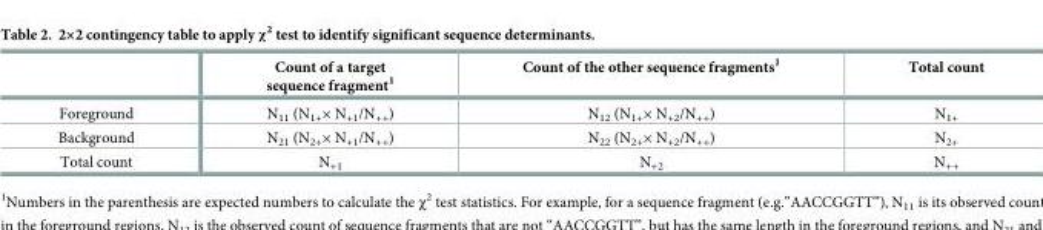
<table><thead><tr><td></td><td>Count of a target sequence fragment<sup>1</sup></td><td>Count of the other sequence fragments<sup>1</sup></td><td>Total count</td></tr></thead><tbody><tr><td>Foreground</td><td>N<sub>11</sub> (N<sub>1+</sub>× N<sub>+1</sub>/N<sub>++</sub>)</td><td>N<sub>12</sub> (N<sub>1+</sub>× N<sub>+2</sub>/N<sub>++</sub>)</td><td>N<sub>1+</sub></td></tr><tr><td>Background</td><td>N<sub>21</sub> (N<sub>2+</sub>× N<sub>+1</sub>/N<sub>++</sub>)</td><td>N<sub>22</sub> (N<sub>2+</sub>× N<sub>+2</sub>/N<sub>++</sub>)</td><td>N<sub>2+</sub></td></tr><tr><td>Total count</td><td>N<sub>+1</sub></td><td>N<sub>+2</sub></td><td>N<sub>++</sub></td></tr></tbody></table>